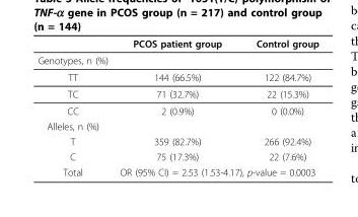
<table><thead><tr><td></td><td>PCOS patient group</td><td>Control group</td></tr></thead><tbody><tr><td colspan="3">Genotypes, n (%)</td></tr><tr><td>TT</td><td>144 (66.5%)</td><td>122 (84.7%)</td></tr><tr><td>TC</td><td>71 (32.7%)</td><td>22 (15.3%)</td></tr><tr><td>CC</td><td>2 (0.9%)</td><td>0 (0.0%)</td></tr><tr><td colspan="3">Alleles, n (%)</td></tr><tr><td>T</td><td>359 (82.7%)</td><td>266 (92.4%)</td></tr><tr><td>C</td><td>75 (17.3%)</td><td>22 (7.6%)</td></tr><tr><td>Total</td><td colspan="2">OR (95% CI) = 2.53 (1.53-4.17), p-value = 0.0003</td></tr></tbody></table>